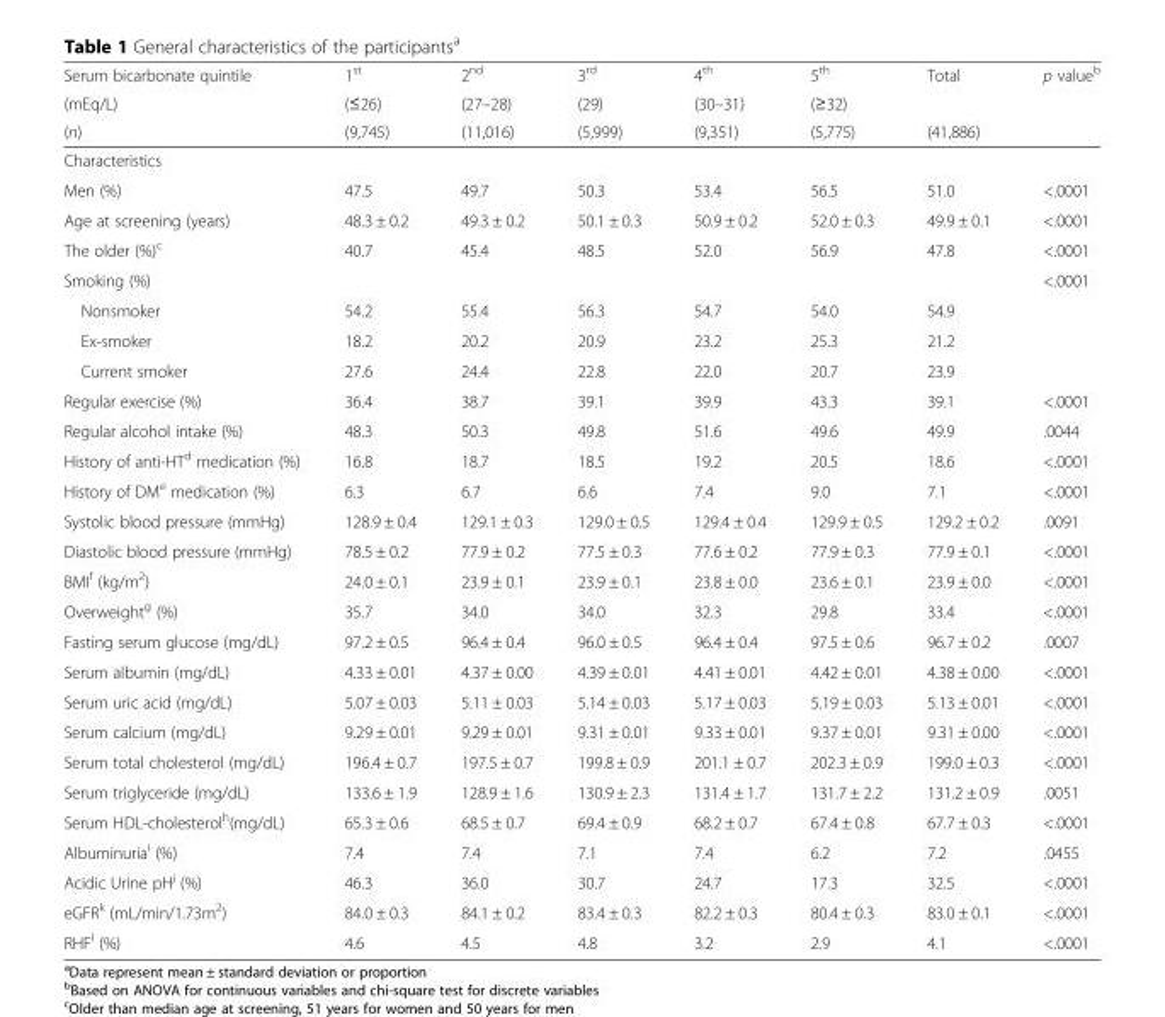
<table><thead><tr><td rowspan="3">Serum bicarbonate quintile (mEq/L) (n)</td><td rowspan="3">1<sup>st</sup> (≤26) (9,745)</td><td rowspan="3">2<sup>nd</sup> (27–28) (11,016)</td><td rowspan="3">3<sup>rd</sup> (29) (5,999)</td><td rowspan="3">4<sup>th</sup> (30–31) (9,351)</td><td rowspan="3">5<sup>th</sup> (≥32) (5,775)</td><td rowspan="3">Total (41,886)</td><td rowspan="3">p value<sup>b</sup></td></tr><tr></tr><tr></tr></thead><tbody><tr><td colspan="8">Characteristics</td></tr><tr><td>Men (%)</td><td>47.5</td><td>49.7</td><td>50.3</td><td>53.4</td><td>56.5</td><td>51.0</td><td>&lt;.0001</td></tr><tr><td>Age at screening (years)</td><td>48.3 ± 0.2</td><td>49.3 ± 0.2</td><td>50.1 ± 0.3</td><td>50.9 ± 0.2</td><td>52.0 ± 0.3</td><td>49.9 ± 0.1</td><td>&lt;.0001</td></tr><tr><td>The older (%)<sup>c</sup></td><td>40.7</td><td>45.4</td><td>48.5</td><td>52.0</td><td>56.9</td><td>47.8</td><td>&lt;.0001</td></tr><tr><td>Smoking (%)</td><td></td><td></td><td></td><td></td><td></td><td></td><td>&lt;.0001</td></tr><tr><td>Nonsmoker</td><td>54.2</td><td>55.4</td><td>56.3</td><td>54.7</td><td>54.0</td><td>54.9</td><td></td></tr><tr><td>Ex-smoker</td><td>18.2</td><td>20.2</td><td>20.9</td><td>23.2</td><td>25.3</td><td>21.2</td><td></td></tr><tr><td>Current smoker</td><td>27.6</td><td>24.4</td><td>22.8</td><td>22.0</td><td>20.7</td><td>23.9</td><td></td></tr><tr><td>Regular exercise (%)</td><td>36.4</td><td>38.7</td><td>39.1</td><td>39.9</td><td>43.3</td><td>39.1</td><td>&lt;.0001</td></tr><tr><td>Regular alcohol intake (%)</td><td>48.3</td><td>50.3</td><td>49.8</td><td>51.6</td><td>49.6</td><td>49.9</td><td>.0044</td></tr><tr><td>History of anti-HT<sup>d</sup> medication (%)</td><td>16.8</td><td>18.7</td><td>18.5</td><td>19.2</td><td>20.5</td><td>18.6</td><td>&lt;.0001</td></tr><tr><td>History of DM<sup>e</sup> medication (%)</td><td>6.3</td><td>6.7</td><td>6.6</td><td>7.4</td><td>9.0</td><td>7.1</td><td>&lt;.0001</td></tr><tr><td>Systolic blood pressure (mmHg)</td><td>128.9 ± 0.4</td><td>129.1 ± 0.3</td><td>129.0 ± 0.5</td><td>129.4 ± 0.4</td><td>129.9 ± 0.5</td><td>129.2 ± 0.2</td><td>.0091</td></tr><tr><td>Diastolic blood pressure (mmHg)</td><td>78.5 ± 0.2</td><td>77.9 ± 0.2</td><td>77.5 ± 0.3</td><td>77.6 ± 0.2</td><td>77.9 ± 0.3</td><td>77.9 ± 0.1</td><td>&lt;.0001</td></tr><tr><td>BMI<sup>f</sup> (kg/m<sup>2</sup>)</td><td>24.0 ± 0.1</td><td>23.9 ± 0.1</td><td>23.9 ± 0.1</td><td>23.8 ± 0.0</td><td>23.6 ± 0.1</td><td>23.9 ± 0.0</td><td>&lt;.0001</td></tr><tr><td>Overweight<sup>g</sup> (%)</td><td>35.7</td><td>34.0</td><td>34.0</td><td>32.3</td><td>29.8</td><td>33.4</td><td>&lt;.0001</td></tr><tr><td>Fasting serum glucose (mg/dL)</td><td>97.2 ± 0.5</td><td>96.4 ± 0.4</td><td>96.0 ± 0.5</td><td>96.4 ± 0.4</td><td>97.5 ± 0.6</td><td>96.7 ± 0.2</td><td>.0007</td></tr><tr><td>Serum albumin (mg/dL)</td><td>4.33 ± 0.01</td><td>4.37 ± 0.00</td><td>4.39 ± 0.01</td><td>4.41 ± 0.01</td><td>4.42 ± 0.01</td><td>4.38 ± 0.00</td><td>&lt;.0001</td></tr><tr><td>Serum uric acid (mg/dL)</td><td>5.07 ± 0.03</td><td>5.11 ± 0.03</td><td>5.14 ± 0.03</td><td>5.17 ± 0.03</td><td>5.19 ± 0.03</td><td>5.13 ± 0.01</td><td>&lt;.0001</td></tr><tr><td>Serum calcium (mg/dL)</td><td>9.29 ± 0.01</td><td>9.29 ± 0.01</td><td>9.31 ± 0.01</td><td>9.33 ± 0.01</td><td>9.37 ± 0.01</td><td>9.31 ± 0.00</td><td>&lt;.0001</td></tr><tr><td>Serum total cholesterol (mg/dL)</td><td>196.4 ± 0.7</td><td>197.5 ± 0.7</td><td>199.8 ± 0.9</td><td>201.1 ± 0.7</td><td>202.3 ± 0.9</td><td>199.0 ± 0.3</td><td>&lt;.0001</td></tr><tr><td>Serum triglyceride (mg/dL)</td><td>133.6 ± 1.9</td><td>128.9 ± 1.6</td><td>130.9 ± 2.3</td><td>131.4 ± 1.7</td><td>131.7 ± 2.2</td><td>131.2 ± 0.9</td><td>.0051</td></tr><tr><td>Serum HDL-cholesterol<sup>h</sup>(mg/dL)</td><td>65.3 ± 0.6</td><td>68.5 ± 0.7</td><td>69.4 ± 0.9</td><td>68.2 ± 0.7</td><td>67.4 ± 0.8</td><td>67.7 ± 0.3</td><td>&lt;.0001</td></tr><tr><td>Albuminuria<sup>i</sup> (%)</td><td>7.4</td><td>7.4</td><td>7.1</td><td>7.4</td><td>6.2</td><td>7.2</td><td>.0455</td></tr><tr><td>Acidic Urine pH<sup>j</sup> (%)</td><td>46.3</td><td>36.0</td><td>30.7</td><td>24.7</td><td>17.3</td><td>32.5</td><td>&lt;.0001</td></tr><tr><td>eGFR<sup>k</sup> (mL/min/1.73m<sup>2</sup>)</td><td>84.0 ± 0.3</td><td>84.1 ± 0.2</td><td>83.4 ± 0.3</td><td>82.2 ± 0.3</td><td>80.4 ± 0.3</td><td>83.0 ± 0.1</td><td>&lt;.0001</td></tr><tr><td>RHF<sup>l</sup> (%)</td><td>4.6</td><td>4.5</td><td>4.8</td><td>3.2</td><td>2.9</td><td>4.1</td><td>&lt;.0001</td></tr></tbody></table>